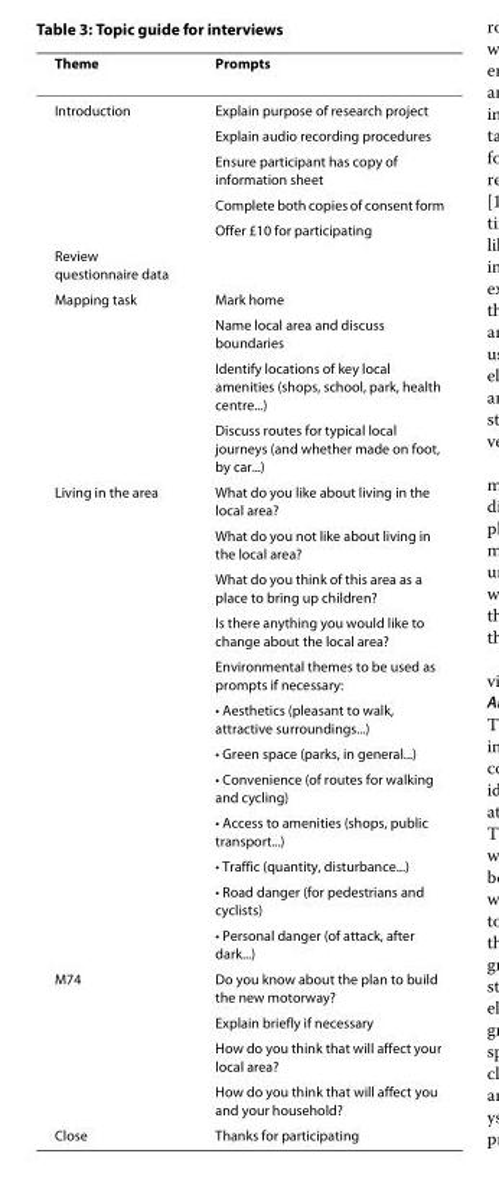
<table><thead><tr><td>Theme</td><td>Prompts</td></tr></thead><tbody><tr><td rowspan="5">Introduction</td><td>Explain purpose of research project</td></tr><tr><td>Explain audio recording procedures</td></tr><tr><td>Ensure participant has copy of information sheet</td></tr><tr><td>Complete both copies of consent form</td></tr><tr><td>Offer £10 for participating</td></tr><tr><td colspan="2">Review questionnaire data</td></tr><tr><td rowspan="4">Mapping task</td><td>Mark home</td></tr><tr><td>Name local area and discuss boundaries</td></tr><tr><td>Identify locations of key local amenities (shops, school, park, health centre...)</td></tr><tr><td>Discuss routes for typical local journeys (and whether made on foot, by car...)</td></tr><tr><td rowspan="12">Living in the area</td><td>What do you like about living in the local area?</td></tr><tr><td>What do you not like about living in the local area?</td></tr><tr><td>What do you think of this area as a place to bring up children?</td></tr><tr><td>Is there anything you would like to change about the local area?</td></tr><tr><td>Environmental themes to be used as prompts if necessary:</td></tr><tr><td>• Aesthetics (pleasant to walk, attractive surroundings...)</td></tr><tr><td>• Green space (parks, in general...)</td></tr><tr><td>• Convenience (of routes for walking and cycling)</td></tr><tr><td>• Access to amenities (shops, public transport...)</td></tr><tr><td>• Traffic (quantity, disturbance...)</td></tr><tr><td>• Road danger (for pedestrians and cyclists)</td></tr><tr><td>• Personal danger (of attack, after dark...)</td></tr><tr><td rowspan="4">M74</td><td>Do you know about the plan to build the new motorway?</td></tr><tr><td>Explain briefly if necessary</td></tr><tr><td>How do you think that will affect your local area?</td></tr><tr><td>How do you think that will affect you and your household?</td></tr><tr><td>Close</td><td>Thanks for participating</td></tr></tbody></table>